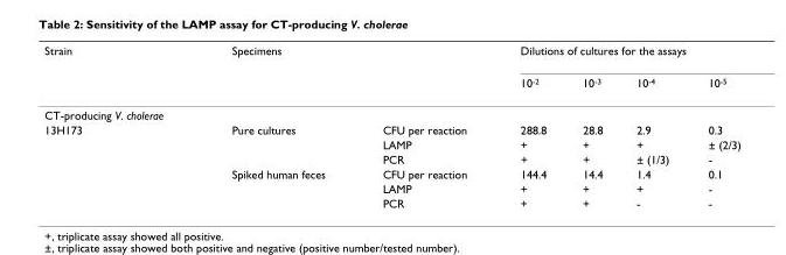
<table><thead><tr><td rowspan="2">Strain</td><td rowspan="2">Specimens</td><td rowspan="2"></td><td colspan="4">Dilutions of cultures for the assays</td></tr><tr><td>10<sup>-2</sup></td><td>10<sup>-3</sup></td><td>10<sup>-4</sup></td><td>10<sup>-5</sup></td></tr></thead><tbody><tr><td colspan="7">CT-producing V. cholerae</td></tr><tr><td rowspan="6">13H173</td><td>Pure cultures</td><td>CFU per reaction</td><td>288.8</td><td>28.8</td><td>2.9</td><td>0.3</td></tr><tr><td></td><td>LAMP</td><td>+</td><td>+</td><td>+</td><td>± (2/3)</td></tr><tr><td></td><td>PCR</td><td>+</td><td>+</td><td>± (1/3)</td><td>-</td></tr><tr><td>Spiked human feces</td><td>CFU per reaction</td><td>144.4</td><td>14.4</td><td>1.4</td><td>0.1</td></tr><tr><td></td><td>LAMP</td><td>+</td><td>+</td><td>+</td><td>-</td></tr><tr><td></td><td>PCR</td><td>+</td><td>+</td><td>-</td><td>-</td></tr></tbody></table>